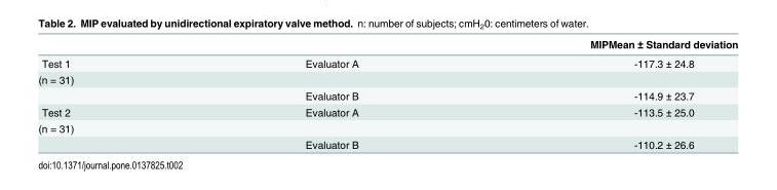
<table><thead><tr><td></td><td></td><td>MIPMean ± Standard deviation</td></tr></thead><tbody><tr><td>Test 1</td><td>Evaluator A</td><td>-117.3 ± 24.8</td></tr><tr><td colspan="3">(n = 31)</td></tr><tr><td></td><td>Evaluator B</td><td>-114.9 ± 23.7</td></tr><tr><td>Test 2</td><td>Evaluator A</td><td>-113.5 ± 25.0</td></tr><tr><td colspan="3">(n = 31)</td></tr><tr><td></td><td>Evaluator B</td><td>-110.2 ± 26.6</td></tr></tbody></table>